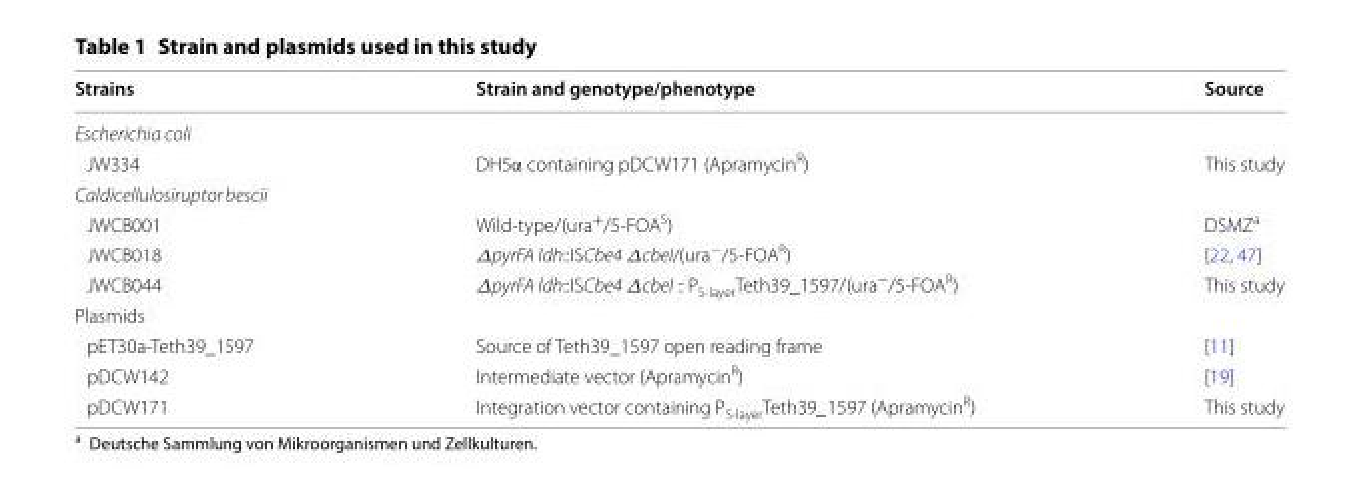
<table><thead><tr><td>Strains</td><td>Strain and genotype/phenotype</td><td>Source</td></tr></thead><tbody><tr><td colspan="3">Escherichia coli</td></tr><tr><td>JW334</td><td>DH5α containing pDCW171 (Apramycin<sup>R</sup>)</td><td>This study</td></tr><tr><td colspan="3">Caldicellulosiruptor bescii</td></tr><tr><td>JWCB001</td><td>Wild-type/(ura<sup>+</sup>/5-FOA<sup>S</sup>)</td><td>DSMZ<sup>a</sup></td></tr><tr><td>JWCB018</td><td>ΔpyrFA ldh::ISCbe4 ΔcbeI/(ura<sup>−</sup>/5-FOA<sup>R</sup>)</td><td>[22, 47]</td></tr><tr><td>JWCB044</td><td>ΔpyrFA ldh::ISCbe4 ΔcbeI :: P<sub>S-layer</sub>Teth39_1597/(ura<sup>−</sup>/5-FOA<sup>R</sup>)</td><td>This study</td></tr><tr><td colspan="3">Plasmids</td></tr><tr><td>pET30a-Teth39_1597</td><td>Source of Teth39_1597 open reading frame</td><td>[11]</td></tr><tr><td>pDCW142</td><td>Intermediate vector (Apramycin<sup>R</sup>)</td><td>[19]</td></tr><tr><td>pDCW171</td><td>Integration vector containing P<sub>S-layer</sub>Teth39_1597 (Apramycin<sup>R</sup>)</td><td>This study</td></tr></tbody></table>